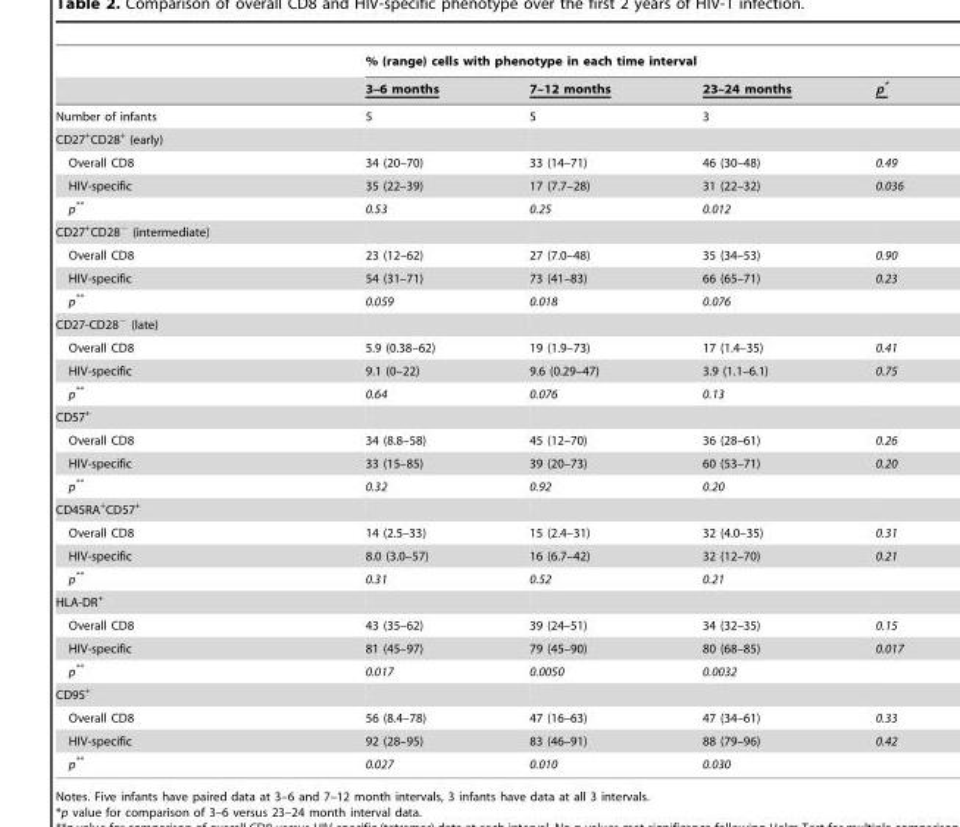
<table><thead><tr><td rowspan="2"></td><td colspan="4">% (range) cells with phenotype in each time interval</td></tr><tr><td>3–6 months</td><td>7–12 months</td><td>23–24 months</td><td>p*</td></tr></thead><tbody><tr><td>Number of infants</td><td>5</td><td>5</td><td>3</td><td></td></tr><tr><td colspan="5">CD27<sup>+</sup>CD28<sup>+</sup> (early)</td></tr><tr><td>Overall CD8</td><td>34 (20–70)</td><td>33 (14–71)</td><td>46 (30–48)</td><td>0.49</td></tr><tr><td>HIV-specific</td><td>35 (22–39)</td><td>17 (7.7–28)</td><td>31 (22–32)</td><td>0.036</td></tr><tr><td>p**</td><td>0.53</td><td>0.25</td><td>0.012</td><td></td></tr><tr><td colspan="5">CD27<sup>+</sup>CD28<sup>−</sup> (intermediate)</td></tr><tr><td>Overall CD8</td><td>23 (12–62)</td><td>27 (7.0–48)</td><td>35 (34–53)</td><td>0.90</td></tr><tr><td>HIV-specific</td><td>54 (31–71)</td><td>73 (41–83)</td><td>66 (65–71)</td><td>0.23</td></tr><tr><td>p**</td><td>0.059</td><td>0.018</td><td>0.076</td><td></td></tr><tr><td colspan="5">CD27-CD28<sup>−</sup> (late)</td></tr><tr><td>Overall CD8</td><td>5.9 (0.38–62)</td><td>19 (1.9–73)</td><td>17 (1.4–35)</td><td>0.41</td></tr><tr><td>HIV-specific</td><td>9.1 (0–22)</td><td>9.6 (0.29–47)</td><td>3.9 (1.1–6.1)</td><td>0.75</td></tr><tr><td>p**</td><td>0.64</td><td>0.076</td><td>0.13</td><td></td></tr><tr><td colspan="5">CD57<sup>+</sup></td></tr><tr><td>Overall CD8</td><td>34 (8.8–58)</td><td>45 (12–70)</td><td>36 (28–61)</td><td>0.26</td></tr><tr><td>HIV-specific</td><td>33 (15–85)</td><td>39 (20–73)</td><td>60 (53–71)</td><td>0.20</td></tr><tr><td>p**</td><td>0.32</td><td>0.92</td><td>0.20</td><td></td></tr><tr><td colspan="5">CD45RA<sup>+</sup>CD57<sup>+</sup></td></tr><tr><td>Overall CD8</td><td>14 (2.5–33)</td><td>15 (2.4–31)</td><td>32 (4.0–35)</td><td>0.31</td></tr><tr><td>HIV-specific</td><td>8.0 (3.0–57)</td><td>16 (6.7–42)</td><td>32 (12–70)</td><td>0.21</td></tr><tr><td>p**</td><td>0.31</td><td>0.52</td><td>0.21</td><td></td></tr><tr><td colspan="5">HLA-DR<sup>+</sup></td></tr><tr><td>Overall CD8</td><td>43 (35–62)</td><td>39 (24–51)</td><td>34 (32–35)</td><td>0.15</td></tr><tr><td>HIV-specific</td><td>81 (45–97)</td><td>79 (45–90)</td><td>80 (68–85)</td><td>0.017</td></tr><tr><td>p**</td><td>0.017</td><td>0.0050</td><td>0.0032</td><td></td></tr><tr><td colspan="5">CD95<sup>+</sup></td></tr><tr><td>Overall CD8</td><td>56 (8.4–78)</td><td>47 (16–63)</td><td>47 (34–61)</td><td>0.33</td></tr><tr><td>HIV-specific</td><td>92 (28–95)</td><td>83 (46–91)</td><td>88 (79–96)</td><td>0.42</td></tr><tr><td>p**</td><td>0.027</td><td>0.010</td><td>0.030</td><td></td></tr></tbody></table>